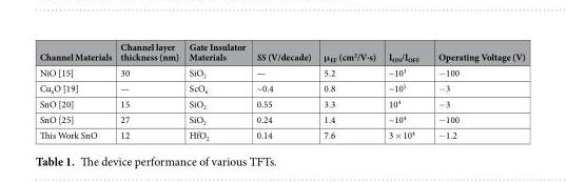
<table><thead><tr><td>Channel Materials</td><td>Channel layer thickness (nm)</td><td>Gate Insulator Materials</td><td>SS (V/decade)</td><td>μ<sub>EF</sub> (cm<sup>2</sup>/V·s)</td><td>I<sub>ON</sub>/I<sub>OFF</sub></td><td>Operating Voltage (V)</td></tr></thead><tbody><tr><td>NiO [15]</td><td>30</td><td>SiO<sub>2</sub></td><td>—</td><td>5.2</td><td>~10<sup>3</sup></td><td>−100</td></tr><tr><td>Cu<sub>x</sub>O [19]</td><td>—</td><td>ScO<sub>x</sub></td><td>~0.4</td><td>0.8</td><td>~10<sup>5</sup></td><td>−3</td></tr><tr><td>SnO [20]</td><td>15</td><td>SiO<sub>2</sub></td><td>0.55</td><td>3.3</td><td>10<sup>4</sup></td><td>−3</td></tr><tr><td>SnO [25]</td><td>27</td><td>SiO<sub>2</sub></td><td>0.24</td><td>1.4</td><td>~10<sup>4</sup></td><td>−100</td></tr><tr><td>This Work SnO</td><td>12</td><td>HfO<sub>2</sub></td><td>0.14</td><td>7.6</td><td>3 × 10<sup>4</sup></td><td>−1.2</td></tr></tbody></table>